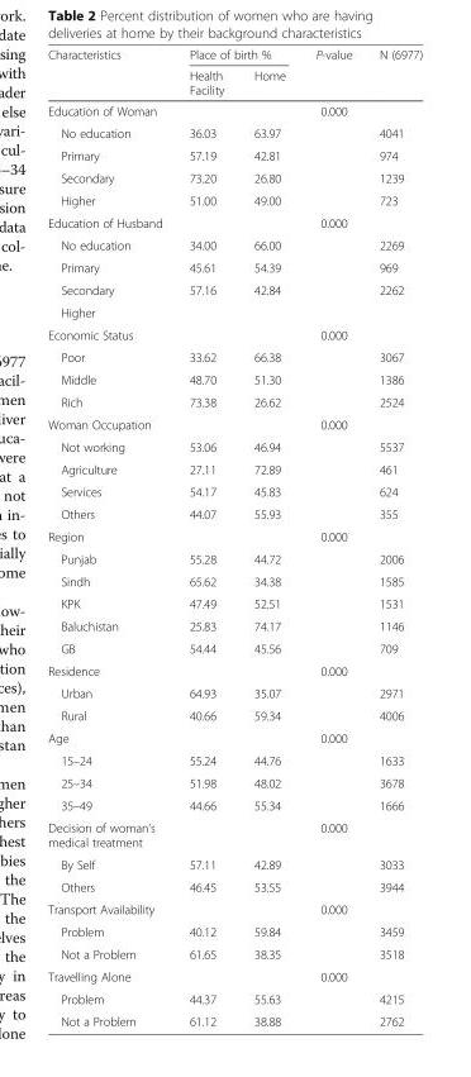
<table><thead><tr><td rowspan="2">Characteristics</td><td colspan="2">Place of birth %</td><td rowspan="2">P-value</td><td rowspan="2">N (6977)</td></tr><tr><td>Health Facility</td><td>Home</td></tr></thead><tbody><tr><td>Education of Woman</td><td></td><td></td><td>0.000</td><td></td></tr><tr><td>No education</td><td>36.03</td><td>63.97</td><td></td><td>4041</td></tr><tr><td>Primary</td><td>57.19</td><td>42.81</td><td></td><td>974</td></tr><tr><td>Secondary</td><td>73.20</td><td>26.80</td><td></td><td>1239</td></tr><tr><td>Higher</td><td>51.00</td><td>49.00</td><td></td><td>723</td></tr><tr><td>Education of Husband</td><td></td><td></td><td>0.000</td><td></td></tr><tr><td>No education</td><td>34.00</td><td>66.00</td><td></td><td>2269</td></tr><tr><td>Primary</td><td>45.61</td><td>54.39</td><td></td><td>969</td></tr><tr><td>Secondary</td><td>57.16</td><td>42.84</td><td></td><td>2262</td></tr><tr><td colspan="5">Higher</td></tr><tr><td>Economic Status</td><td></td><td></td><td>0.000</td><td></td></tr><tr><td>Poor</td><td>33.62</td><td>66.38</td><td></td><td>3067</td></tr><tr><td>Middle</td><td>48.70</td><td>51.30</td><td></td><td>1386</td></tr><tr><td>Rich</td><td>73.38</td><td>26.62</td><td></td><td>2524</td></tr><tr><td>Woman Occupation</td><td></td><td></td><td>0.000</td><td></td></tr><tr><td>Not working</td><td>53.06</td><td>46.94</td><td></td><td>5537</td></tr><tr><td>Agriculture</td><td>27.11</td><td>72.89</td><td></td><td>461</td></tr><tr><td>Services</td><td>54.17</td><td>45.83</td><td></td><td>624</td></tr><tr><td>Others</td><td>44.07</td><td>55.93</td><td></td><td>355</td></tr><tr><td>Region</td><td></td><td></td><td>0.000</td><td></td></tr><tr><td>Punjab</td><td>55.28</td><td>44.72</td><td></td><td>2006</td></tr><tr><td>Sindh</td><td>65.62</td><td>34.38</td><td></td><td>1585</td></tr><tr><td>KPK</td><td>47.49</td><td>52.51</td><td></td><td>1531</td></tr><tr><td>Baluchistan</td><td>25.83</td><td>74.17</td><td></td><td>1146</td></tr><tr><td>GB</td><td>54.44</td><td>45.56</td><td></td><td>709</td></tr><tr><td>Residence</td><td></td><td></td><td>0.000</td><td></td></tr><tr><td>Urban</td><td>64.93</td><td>35.07</td><td></td><td>2971</td></tr><tr><td>Rural</td><td>40.66</td><td>59.34</td><td></td><td>4006</td></tr><tr><td>Age</td><td></td><td></td><td>0.000</td><td></td></tr><tr><td>15–24</td><td>55.24</td><td>44.76</td><td></td><td>1633</td></tr><tr><td>25–34</td><td>51.98</td><td>48.02</td><td></td><td>3678</td></tr><tr><td>35–49</td><td>44.66</td><td>55.34</td><td></td><td>1666</td></tr><tr><td>Decision of woman’s medical treatment</td><td></td><td></td><td>0.000</td><td></td></tr><tr><td>By Self</td><td>57.11</td><td>42.89</td><td></td><td>3033</td></tr><tr><td>Others</td><td>46.45</td><td>53.55</td><td></td><td>3944</td></tr><tr><td>Transport Availability</td><td></td><td></td><td>0.000</td><td></td></tr><tr><td>Problem</td><td>40.12</td><td>59.84</td><td></td><td>3459</td></tr><tr><td>Not a Problem</td><td>61.65</td><td>38.35</td><td></td><td>3518</td></tr><tr><td>Travelling Alone</td><td></td><td></td><td>0.000</td><td></td></tr><tr><td>Problem</td><td>44.37</td><td>55.63</td><td></td><td>4215</td></tr><tr><td>Not a Problem</td><td>61.12</td><td>38.88</td><td></td><td>2762</td></tr></tbody></table>